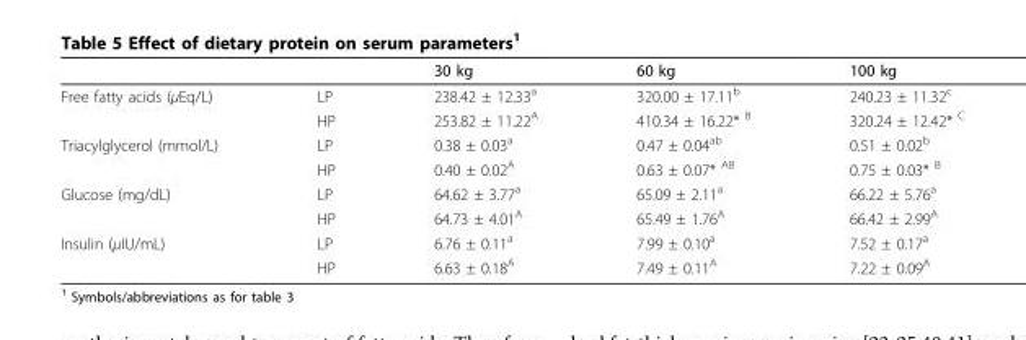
<table><thead><tr><td></td><td></td><td>30 kg</td><td>60 kg</td><td>100 kg</td></tr></thead><tbody><tr><td rowspan="2">Free fatty acids (μEq/L)</td><td>LP</td><td>238.42 ± 12.33<sup>a</sup></td><td>320.00 ± 17.11<sup>b</sup></td><td>240.23 ± 11.32<sup>c</sup></td></tr><tr><td>HP</td><td>253.82 ± 11.22<sup>A</sup></td><td>410.34 ± 16.22* <sup>B</sup></td><td>320.24 ± 12.42* <sup>C</sup></td></tr><tr><td rowspan="2">Triacylglycerol (mmol/L)</td><td>LP</td><td>0.38 ± 0.03<sup>a</sup></td><td>0.47 ± 0.04<sup>ab</sup></td><td>0.51 ± 0.02<sup>b</sup></td></tr><tr><td>HP</td><td>0.40 ± 0.02<sup>A</sup></td><td>0.63 ± 0.07* <sup>AB</sup></td><td>0.75 ± 0.03* <sup>B</sup></td></tr><tr><td rowspan="2">Glucose (mg/dL)</td><td>LP</td><td>64.62 ± 3.77<sup>a</sup></td><td>65.09 ± 2.11<sup>a</sup></td><td>66.22 ± 5.76<sup>a</sup></td></tr><tr><td>HP</td><td>64.73 ± 4.01<sup>A</sup></td><td>65.49 ± 1.76<sup>A</sup></td><td>66.42 ± 2.99<sup>A</sup></td></tr><tr><td rowspan="2">Insulin (μIU/mL)</td><td>LP</td><td>6.76 ± 0.11<sup>a</sup></td><td>7.99 ± 0.10<sup>a</sup></td><td>7.52 ± 0.17<sup>a</sup></td></tr><tr><td>HP</td><td>6.63 ± 0.18<sup>A</sup></td><td>7.49 ± 0.11<sup>A</sup></td><td>7.22 ± 0.09<sup>A</sup></td></tr></tbody></table>